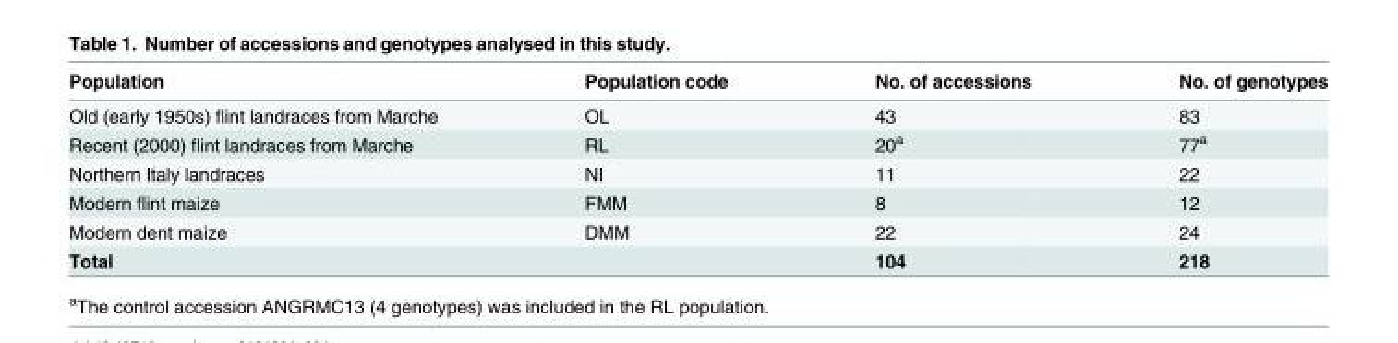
<table><thead><tr><td>Population</td><td>Population code</td><td>No. of accessions</td><td>No. of genotypes</td></tr></thead><tbody><tr><td>Old (early 1950s) flint landraces from Marche</td><td>OL</td><td>43</td><td>83</td></tr><tr><td>Recent (2000) flint landraces from Marche</td><td>RL</td><td>20<sup>a</sup></td><td>77<sup>a</sup></td></tr><tr><td>Northern Italy landraces</td><td>NI</td><td>11</td><td>22</td></tr><tr><td>Modern flint maize</td><td>FMM</td><td>8</td><td>12</td></tr><tr><td>Modern dent maize</td><td>DMM</td><td>22</td><td>24</td></tr><tr><td>Total</td><td></td><td>104</td><td>218</td></tr></tbody></table>